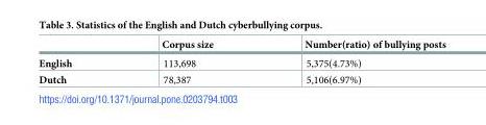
<table><thead><tr><td></td><td>Corpus size</td><td>Number(ratio) of bullying posts</td></tr></thead><tbody><tr><td>English</td><td>113,698</td><td>5,375(4.73%)</td></tr><tr><td>Dutch</td><td>78,387</td><td>5,106(6.97%)</td></tr></tbody></table>